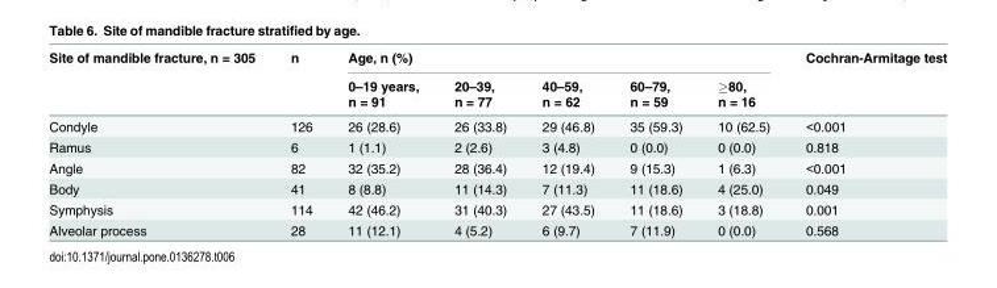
<table><thead><tr><td rowspan="2">Site of mandible fracture, n = 305</td><td rowspan="2">n</td><td colspan="5">Age, n (%)</td><td rowspan="2">Cochran-Armitage test</td></tr><tr><td>0–19 years, n = 91</td><td>20–39, n = 77</td><td>40–59, n = 62</td><td>60–79, n = 59</td><td>≥80, n = 16</td></tr></thead><tbody><tr><td>Condyle</td><td>126</td><td>26 (28.6)</td><td>26 (33.8)</td><td>29 (46.8)</td><td>35 (59.3)</td><td>10 (62.5)</td><td>&lt;0.001</td></tr><tr><td>Ramus</td><td>6</td><td>1 (1.1)</td><td>2 (2.6)</td><td>3 (4.8)</td><td>0 (0.0)</td><td>0 (0.0)</td><td>0.818</td></tr><tr><td>Angle</td><td>82</td><td>32 (35.2)</td><td>28 (36.4)</td><td>12 (19.4)</td><td>9 (15.3)</td><td>1 (6.3)</td><td>&lt;0.001</td></tr><tr><td>Body</td><td>41</td><td>8 (8.8)</td><td>11 (14.3)</td><td>7 (11.3)</td><td>11 (18.6)</td><td>4 (25.0)</td><td>0.049</td></tr><tr><td>Symphysis</td><td>114</td><td>42 (46.2)</td><td>31 (40.3)</td><td>27 (43.5)</td><td>11 (18.6)</td><td>3 (18.8)</td><td>0.001</td></tr><tr><td>Alveolar process</td><td>28</td><td>11 (12.1)</td><td>4 (5.2)</td><td>6 (9.7)</td><td>7 (11.9)</td><td>0 (0.0)</td><td>0.568</td></tr></tbody></table>